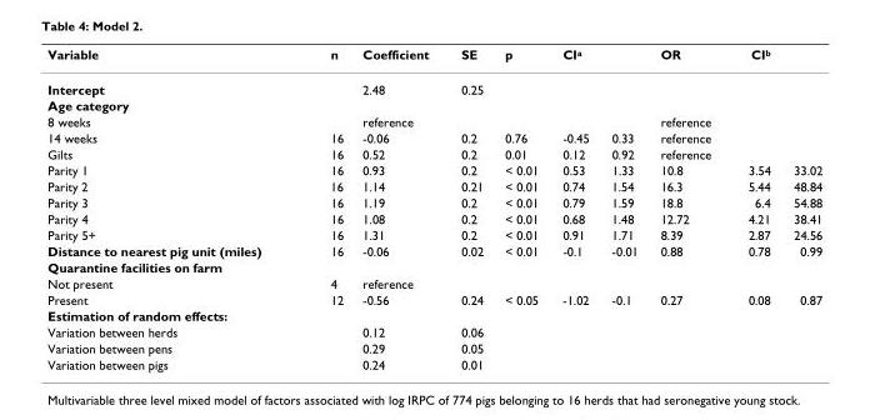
<table><thead><tr><td>Variable</td><td>n</td><td>Coefficient</td><td>SE</td><td>p</td><td>CI<sup>a</sup></td><td></td><td>OR</td><td>CI<sup>b</sup></td><td></td></tr></thead><tbody><tr><td>Intercept</td><td></td><td>2.48</td><td>0.25</td><td></td><td></td><td></td><td></td><td></td><td></td></tr><tr><td colspan="10">Age category</td></tr><tr><td>8 weeks</td><td></td><td>reference</td><td></td><td></td><td></td><td></td><td>reference</td><td></td><td></td></tr><tr><td>14 weeks</td><td>16</td><td>-0.06</td><td>0.2</td><td>0.76</td><td>-0.45</td><td>0.33</td><td>reference</td><td></td><td></td></tr><tr><td>Gilts</td><td>16</td><td>0.52</td><td>0.2</td><td>0.01</td><td>0.12</td><td>0.92</td><td>reference</td><td></td><td></td></tr><tr><td>Parity 1</td><td>16</td><td>0.93</td><td>0.2</td><td>&lt; 0.01</td><td>0.53</td><td>1.33</td><td>10.8</td><td>3.54</td><td>33.02</td></tr><tr><td>Parity 2</td><td>16</td><td>1.14</td><td>0.21</td><td>&lt; 0.01</td><td>0.74</td><td>1.54</td><td>16.3</td><td>5.44</td><td>48.84</td></tr><tr><td>Parity 3</td><td>16</td><td>1.19</td><td>0.2</td><td>&lt; 0.01</td><td>0.79</td><td>1.59</td><td>18.8</td><td>6.4</td><td>54.88</td></tr><tr><td>Parity 4</td><td>16</td><td>1.08</td><td>0.2</td><td>&lt; 0.01</td><td>0.68</td><td>1.48</td><td>12.72</td><td>4.21</td><td>38.41</td></tr><tr><td>Parity 5+</td><td>16</td><td>1.31</td><td>0.2</td><td>&lt; 0.01</td><td>0.91</td><td>1.71</td><td>8.39</td><td>2.87</td><td>24.56</td></tr><tr><td>Distance to nearest pig unit (miles)</td><td>16</td><td>-0.06</td><td>0.02</td><td>&lt; 0.01</td><td>-0.1</td><td>-0.01</td><td>0.88</td><td>0.78</td><td>0.99</td></tr><tr><td colspan="10">Quarantine facilities on farm</td></tr><tr><td>Not present</td><td>4</td><td>reference</td><td></td><td></td><td></td><td></td><td></td><td></td><td></td></tr><tr><td>Present</td><td>12</td><td>-0.56</td><td>0.24</td><td>&lt; 0.05</td><td>-1.02</td><td>-0.1</td><td>0.27</td><td>0.08</td><td>0.87</td></tr><tr><td colspan="10">Estimation of random effects:</td></tr><tr><td>Variation between herds</td><td></td><td>0.12</td><td>0.06</td><td></td><td></td><td></td><td></td><td></td><td></td></tr><tr><td>Variation between pens</td><td></td><td>0.29</td><td>0.05</td><td></td><td></td><td></td><td></td><td></td><td></td></tr><tr><td>Variation between pigs</td><td></td><td>0.24</td><td>0.01</td><td></td><td></td><td></td><td></td><td></td><td></td></tr></tbody></table>